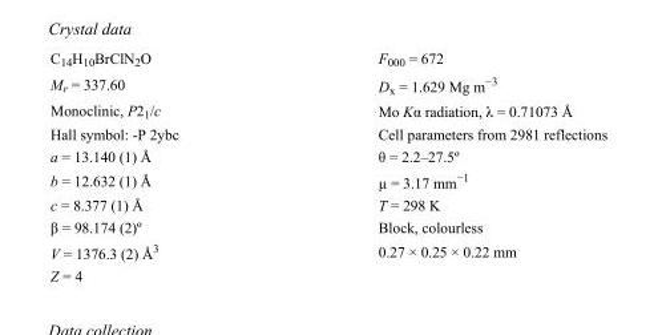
<table><tbody><tr><td>C<sub>14</sub>H<sub>10</sub>BrClN<sub>2</sub>O</td><td>F000 = 672</td></tr><tr><td>M<sub>r</sub> = 337.60</td><td>D<sub>x</sub> = 1.629 Mg m<sup>−3</sup></td></tr><tr><td>Monoclinic, P2<sub>1</sub>/c</td><td>Mo Kα radiation, λ = 0.71073 Å</td></tr><tr><td>Hall symbol: -P 2ybc</td><td>Cell parameters from 2981 reflections</td></tr><tr><td>a = 13.140 (1) Å</td><td>θ = 2.2–27.5º</td></tr><tr><td>b = 12.632 (1) Å</td><td>µ = 3.17 mm<sup>−1</sup></td></tr><tr><td>c = 8.377 (1) Å</td><td>T = 298 K</td></tr><tr><td>β = 98.174 (2)º</td><td>Block, colourless</td></tr><tr><td>V = 1376.3 (2) Å<sup>3</sup></td><td>0.27 × 0.25 × 0.22 mm</td></tr><tr><td>Z = 4</td><td></td></tr></tbody></table>